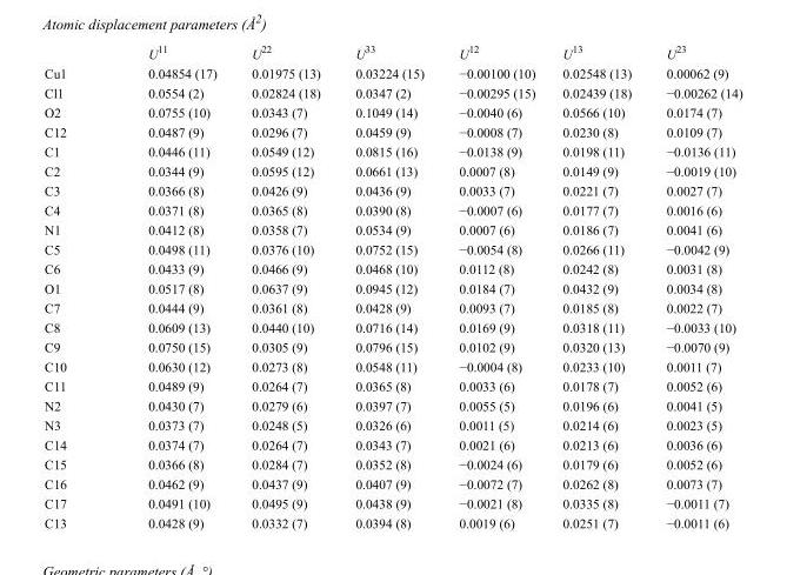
<table><thead><tr><td></td><td>U<sup>11</sup></td><td>U<sup>22</sup></td><td>U<sup>33</sup></td><td>U<sup>12</sup></td><td>U<sup>13</sup></td><td>U<sup>23</sup></td></tr></thead><tbody><tr><td>Cu1</td><td>0.04854 (17)</td><td>0.01975 (13)</td><td>0.03224 (15)</td><td>−0.00100 (10)</td><td>0.02548 (13)</td><td>0.00062 (9)</td></tr><tr><td>Cl1</td><td>0.0554 (2)</td><td>0.02824 (18)</td><td>0.0347 (2)</td><td>−0.00295 (15)</td><td>0.02439 (18)</td><td>−0.00262 (14)</td></tr><tr><td>O2</td><td>0.0755 (10)</td><td>0.0343 (7)</td><td>0.1049 (14)</td><td>−0.0040 (6)</td><td>0.0566 (10)</td><td>0.0174 (7)</td></tr><tr><td>C12</td><td>0.0487 (9)</td><td>0.0296 (7)</td><td>0.0459 (9)</td><td>−0.0008 (7)</td><td>0.0230 (8)</td><td>0.0109 (7)</td></tr><tr><td>C1</td><td>0.0446 (11)</td><td>0.0549 (12)</td><td>0.0815 (16)</td><td>−0.0138 (9)</td><td>0.0198 (11)</td><td>−0.0136 (11)</td></tr><tr><td>C2</td><td>0.0344 (9)</td><td>0.0595 (12)</td><td>0.0661 (13)</td><td>0.0007 (8)</td><td>0.0149 (9)</td><td>−0.0019 (10)</td></tr><tr><td>C3</td><td>0.0366 (8)</td><td>0.0426 (9)</td><td>0.0436 (9)</td><td>0.0033 (7)</td><td>0.0221 (7)</td><td>0.0027 (7)</td></tr><tr><td>C4</td><td>0.0371 (8)</td><td>0.0365 (8)</td><td>0.0390 (8)</td><td>−0.0007 (6)</td><td>0.0177 (7)</td><td>0.0016 (6)</td></tr><tr><td>N1</td><td>0.0412 (8)</td><td>0.0358 (7)</td><td>0.0534 (9)</td><td>0.0007 (6)</td><td>0.0186 (7)</td><td>0.0041 (6)</td></tr><tr><td>C5</td><td>0.0498 (11)</td><td>0.0376 (10)</td><td>0.0752 (15)</td><td>−0.0054 (8)</td><td>0.0266 (11)</td><td>−0.0042 (9)</td></tr><tr><td>C6</td><td>0.0433 (9)</td><td>0.0466 (9)</td><td>0.0468 (10)</td><td>0.0112 (8)</td><td>0.0242 (8)</td><td>0.0031 (8)</td></tr><tr><td>O1</td><td>0.0517 (8)</td><td>0.0637 (9)</td><td>0.0945 (12)</td><td>0.0184 (7)</td><td>0.0432 (9)</td><td>0.0034 (8)</td></tr><tr><td>C7</td><td>0.0444 (9)</td><td>0.0361 (8)</td><td>0.0428 (9)</td><td>0.0093 (7)</td><td>0.0185 (8)</td><td>0.0022 (7)</td></tr><tr><td>C8</td><td>0.0609 (13)</td><td>0.0440 (10)</td><td>0.0716 (14)</td><td>0.0169 (9)</td><td>0.0318 (11)</td><td>−0.0033 (10)</td></tr><tr><td>C9</td><td>0.0750 (15)</td><td>0.0305 (9)</td><td>0.0796 (15)</td><td>0.0102 (9)</td><td>0.0320 (13)</td><td>−0.0070 (9)</td></tr><tr><td>C10</td><td>0.0630 (12)</td><td>0.0273 (8)</td><td>0.0548 (11)</td><td>−0.0004 (8)</td><td>0.0233 (10)</td><td>0.0011 (7)</td></tr><tr><td>C11</td><td>0.0489 (9)</td><td>0.0264 (7)</td><td>0.0365 (8)</td><td>0.0033 (6)</td><td>0.0178 (7)</td><td>0.0052 (6)</td></tr><tr><td>N2</td><td>0.0430 (7)</td><td>0.0279 (6)</td><td>0.0397 (7)</td><td>0.0055 (5)</td><td>0.0196 (6)</td><td>0.0041 (5)</td></tr><tr><td>N3</td><td>0.0373 (7)</td><td>0.0248 (5)</td><td>0.0326 (6)</td><td>0.0011 (5)</td><td>0.0214 (6)</td><td>0.0023 (5)</td></tr><tr><td>C14</td><td>0.0374 (7)</td><td>0.0264 (7)</td><td>0.0343 (7)</td><td>0.0021 (6)</td><td>0.0213 (6)</td><td>0.0036 (6)</td></tr><tr><td>C15</td><td>0.0366 (8)</td><td>0.0284 (7)</td><td>0.0352 (8)</td><td>−0.0024 (6)</td><td>0.0179 (6)</td><td>0.0052 (6)</td></tr><tr><td>C16</td><td>0.0462 (9)</td><td>0.0437 (9)</td><td>0.0407 (9)</td><td>−0.0072 (7)</td><td>0.0262 (8)</td><td>0.0073 (7)</td></tr><tr><td>C17</td><td>0.0491 (10)</td><td>0.0495 (9)</td><td>0.0438 (9)</td><td>−0.0021 (8)</td><td>0.0335 (8)</td><td>−0.0011 (7)</td></tr><tr><td>C13</td><td>0.0428 (9)</td><td>0.0332 (7)</td><td>0.0394 (8)</td><td>0.0019 (6)</td><td>0.0251 (7)</td><td>−0.0011 (6)</td></tr></tbody></table>